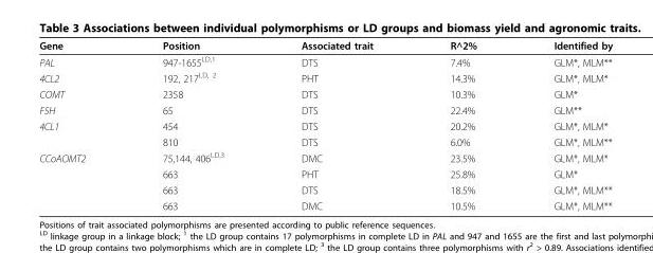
<table><thead><tr><td>Gene</td><td>Position</td><td>Associated trait</td><td>R^2%</td><td>Identified by</td></tr></thead><tbody><tr><td>PAL</td><td>947-1655<sup>LD,1</sup></td><td>DTS</td><td>7.4%</td><td>GLM*, MLM**</td></tr><tr><td>4CL2</td><td>192, 217<sup>LD, 2</sup></td><td>PHT</td><td>14.3%</td><td>GLM*, MLM*</td></tr><tr><td>COMT</td><td>2358</td><td>DTS</td><td>10.3%</td><td>GLM*</td></tr><tr><td>F5H</td><td>65</td><td>DTS</td><td>22.4%</td><td>GLM**</td></tr><tr><td rowspan="2">4CL1</td><td>454</td><td>DTS</td><td>20.2%</td><td>GLM*, MLM*</td></tr><tr><td>810</td><td>DTS</td><td>6.0%</td><td>GLM*, MLM**</td></tr><tr><td rowspan="4">CCoAOMT2</td><td>75,144, 406<sup>LD,3</sup></td><td>DMC</td><td>23.5%</td><td>GLM*, MLM*</td></tr><tr><td>663</td><td>PHT</td><td>25.8%</td><td>GLM*</td></tr><tr><td>663</td><td>DTS</td><td>18.5%</td><td>GLM*, MLM**</td></tr><tr><td>663</td><td>DMC</td><td>10.5%</td><td>GLM*, MLM**</td></tr></tbody></table>